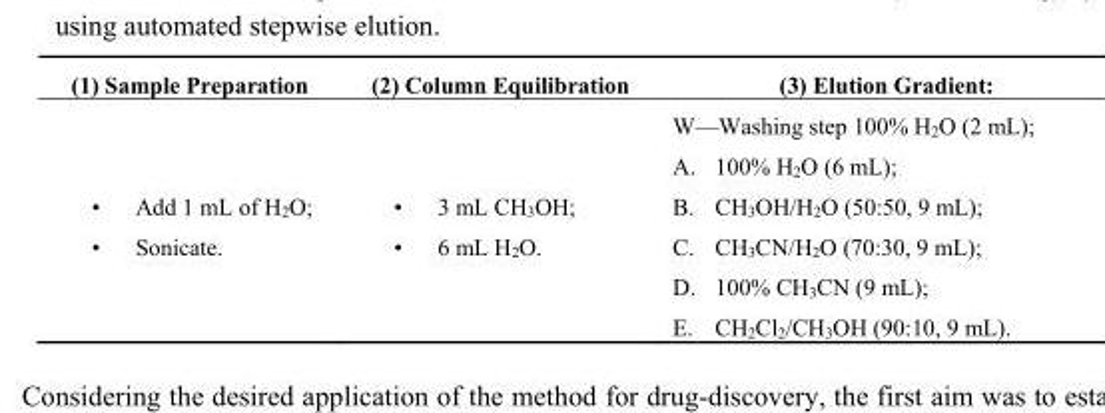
<table><thead><tr><td>(1) Sample Preparation</td><td>(2) Column Equilibration</td><td>(3) Elution Gradient:</td></tr></thead><tbody><tr><td>• Add 1 mL of H<sub>2</sub>O; • Sonicate.</td><td>• 3 mL CH<sub>3</sub>OH; • 6 mL H<sub>2</sub>O.</td><td>W—Washing step 100% H2O (2 mL); A. 100% H2O (6 mL); B. CH3OH/H2O (50:50, 9 mL); C. CH3CN/H2O (70:30, 9 mL); D. 100% CH3CN (9 mL); E. CH2Cl2/CH3OH (90:10, 9 mL).</td></tr></tbody></table>